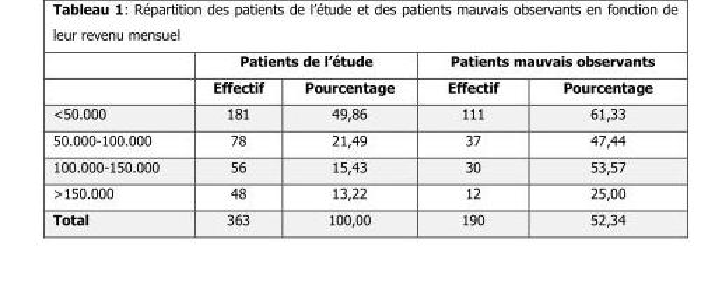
<table><thead><tr><td rowspan="2"></td><td colspan="2">Patients de l’étude</td><td colspan="2">Patients mauvais observants</td></tr><tr><td>Effectif</td><td>Pourcentage</td><td>Effectif</td><td>Pourcentage</td></tr></thead><tbody><tr><td>&lt;50.000</td><td>181</td><td>49,86</td><td>111</td><td>61,33</td></tr><tr><td>50.000-100.000</td><td>78</td><td>21,49</td><td>37</td><td>47,44</td></tr><tr><td>100.000-150.000</td><td>56</td><td>15,43</td><td>30</td><td>53,57</td></tr><tr><td>&gt;150.000</td><td>48</td><td>13,22</td><td>12</td><td>25,00</td></tr><tr><td>Total</td><td>363</td><td>100,00</td><td>190</td><td>52,34</td></tr></tbody></table>